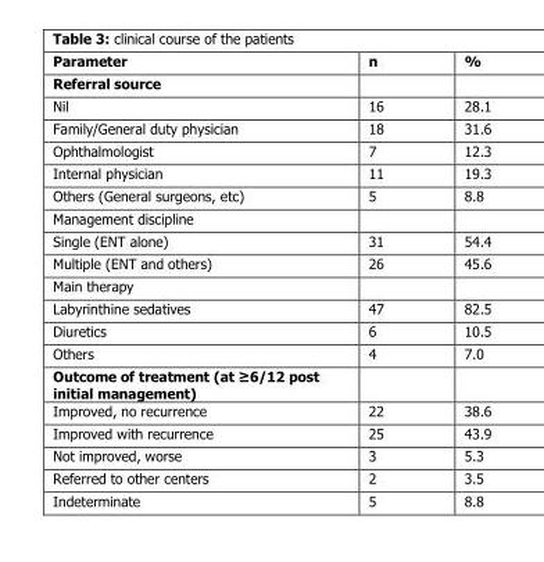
<table><thead><tr><td>Parameter</td><td>n</td><td>%</td></tr></thead><tbody><tr><td colspan="3">Referral source</td></tr><tr><td>Nil</td><td>16</td><td>28.1</td></tr><tr><td>Family/General duty physician</td><td>18</td><td>31.6</td></tr><tr><td>Ophthalmologist</td><td>7</td><td>12.3</td></tr><tr><td>Internal physician</td><td>11</td><td>19.3</td></tr><tr><td>Others (General surgeons, etc)</td><td>5</td><td>8.8</td></tr><tr><td colspan="3">Management discipline</td></tr><tr><td>Single (ENT alone)</td><td>31</td><td>54.4</td></tr><tr><td>Multiple (ENT and others)</td><td>26</td><td>45.6</td></tr><tr><td colspan="3">Main therapy</td></tr><tr><td>Labyrinthine sedatives</td><td>47</td><td>82.5</td></tr><tr><td>Diuretics</td><td>6</td><td>10.5</td></tr><tr><td>Others</td><td>4</td><td>7.0</td></tr><tr><td colspan="3">Outcome of treatment (at ≥6/12 post initial management)</td></tr><tr><td>Improved, no recurrence</td><td>22</td><td>38.6</td></tr><tr><td>Improved with recurrence</td><td>25</td><td>43.9</td></tr><tr><td>Not improved, worse</td><td>3</td><td>5.3</td></tr><tr><td>Referred to other centers</td><td>2</td><td>3.5</td></tr><tr><td>Indeterminate</td><td>5</td><td>8.8</td></tr></tbody></table>